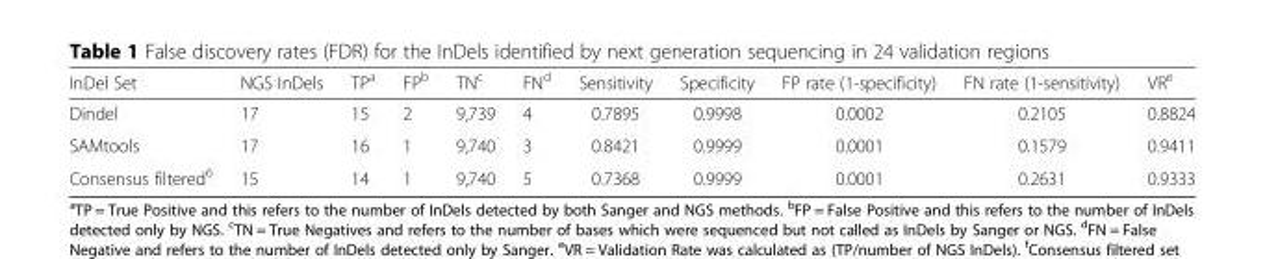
<table><thead><tr><td>InDel Set</td><td>NGS InDels</td><td>TP<sup>a</sup></td><td>FP<sup>b</sup></td><td>TN<sup>c</sup></td><td>FN<sup>d</sup></td><td>Sensitivity</td><td>Specificity</td><td>FP rate (1-specificity)</td><td>FN rate (1-sensitivity)</td><td>VR<sup>e</sup></td></tr></thead><tbody><tr><td>Dindel</td><td>17</td><td>15</td><td>2</td><td>9,739</td><td>4</td><td>0.7895</td><td>0.9998</td><td>0.0002</td><td>0.2105</td><td>0.8824</td></tr><tr><td>SAMtools</td><td>17</td><td>16</td><td>1</td><td>9,740</td><td>3</td><td>0.8421</td><td>0.9999</td><td>0.0001</td><td>0.1579</td><td>0.9411</td></tr><tr><td>Consensus filtered<sup>6</sup></td><td>15</td><td>14</td><td>1</td><td>9,740</td><td>5</td><td>0.7368</td><td>0.9999</td><td>0.0001</td><td>0.2631</td><td>0.9333</td></tr></tbody></table>